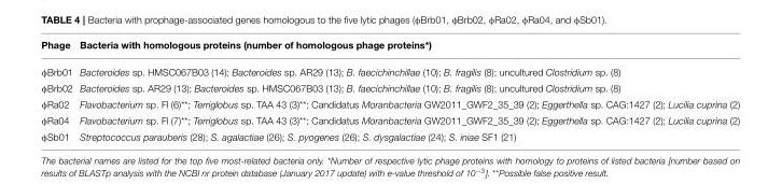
<table><thead><tr><td>Phage</td><td>Bacteria with homologous proteins (number of homologous phage proteins*)</td></tr></thead><tbody><tr><td>φBrb01</td><td>Bacteroides sp. HMSC067B03 (14); Bacteroides sp. AR29 (13); B. faecichinchillae (10); B. fragilis (8); uncultured Clostridium sp. (8)</td></tr><tr><td>φBrb02</td><td>Bacteroides sp. AR29 (13); Bacteroides sp. HMSC067B03 (13); B. faecichinchillae (10); B. fragilis (8); uncultured Clostridium sp. (8)</td></tr><tr><td>φRa02</td><td>Flavobacterium sp. Fl (6)**; Terriglobus sp. TAA 43 (3)**; Candidatus Moranbacteria GW2011_GWF2_35_39 (2); Eggerthella sp. CAG:1427 (2); Lucilia cuprina (2)</td></tr><tr><td>φRa04</td><td>Flavobacterium sp. Fl (7)**; Terriglobus sp. TAA 43 (3)**; Candidatus Moranbacteria GW2011_GWF2_35_39 (2); Eggerthella sp. CAG:1427 (2); Lucilia cuprina (2)</td></tr><tr><td>φSb01</td><td>Streptococcus parauberis (28); S. agalactiae (26); S. pyogenes (26); S. dysgalactiae (24); S. iniae SF1 (21)</td></tr></tbody></table>